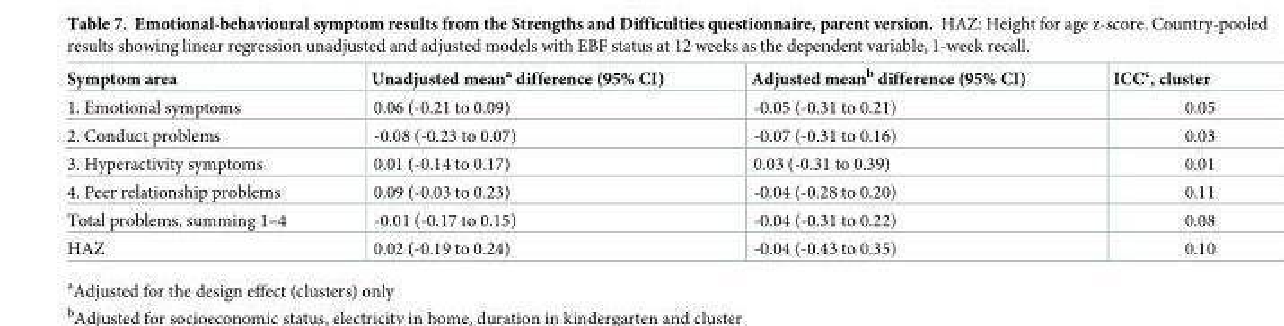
<table><thead><tr><td>Symptom area</td><td>Unadjusted mean<sup>a</sup> difference (95% CI)</td><td>Adjusted mean<sup>b</sup> difference (95% CI)</td><td>ICC<sup>c</sup>, cluster</td></tr></thead><tbody><tr><td>1. Emotional symptoms</td><td>0.06 (-0.21 to 0.09)</td><td>-0.05 (-0.31 to 0.21)</td><td>0.05</td></tr><tr><td>2. Conduct problems</td><td>-0.08 (-0.23 to 0.07)</td><td>-0.07 (-0.31 to 0.16)</td><td>0.03</td></tr><tr><td>3. Hyperactivity symptoms</td><td>0.01 (-0.14 to 0.17)</td><td>0.03 (-0.31 to 0.39)</td><td>0.01</td></tr><tr><td>4. Peer relationship problems</td><td>0.09 (-0.03 to 0.23)</td><td>-0.04 (-0.28 to 0.20)</td><td>0.11</td></tr><tr><td>Total problems, summing 1–4</td><td>-0.01 (-0.17 to 0.15)</td><td>-0.04 (-0.31 to 0.22)</td><td>0.08</td></tr><tr><td>HAZ</td><td>0.02 (-0.19 to 0.24)</td><td>-0.04 (-0.43 to 0.35)</td><td>0.10</td></tr></tbody></table>